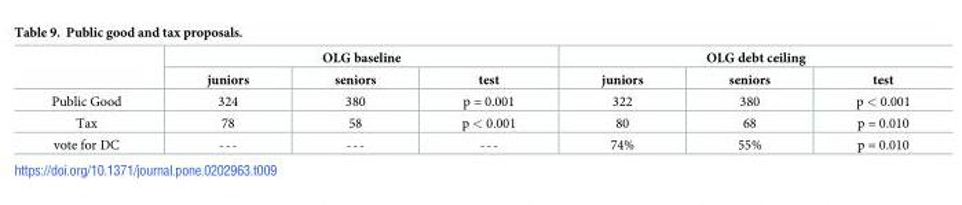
<table><thead><tr><td rowspan="2"></td><td colspan="3">OLG baseline</td><td colspan="3">OLG debt ceiling</td></tr><tr><td>juniors</td><td>seniors</td><td>test</td><td>juniors</td><td>seniors</td><td>test</td></tr></thead><tbody><tr><td>Public Good</td><td>324</td><td>380</td><td>p = 0.001</td><td>322</td><td>380</td><td>p &lt; 0.001</td></tr><tr><td>Tax</td><td>78</td><td>58</td><td>p &lt; 0.001</td><td>80</td><td>68</td><td>p = 0.010</td></tr><tr><td>vote for DC</td><td>---</td><td>---</td><td>---</td><td>74%</td><td>55%</td><td>p = 0.010</td></tr></tbody></table>